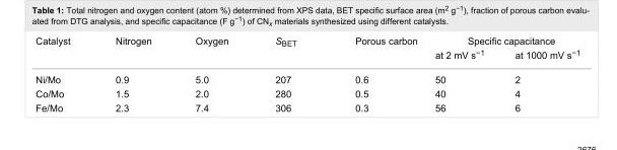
<table><tbody><tr><td rowspan="2">Catalyst</td><td rowspan="2">Nitrogen</td><td rowspan="2">Oxygen</td><td rowspan="2">S<sub>BET</sub></td><td rowspan="2">Porous carbon</td><td colspan="2">Specific capacitance</td></tr><tr><td>at 2 mV s<sup>−1</sup></td><td>at 1000 mV s<sup>−1</sup></td></tr><tr><td>Ni/Mo</td><td>0.9</td><td>5.0</td><td>207</td><td>0.6</td><td>50</td><td>2</td></tr><tr><td>Co/Mo</td><td>1.5</td><td>2.0</td><td>280</td><td>0.5</td><td>40</td><td>4</td></tr><tr><td>Fe/Mo</td><td>2.3</td><td>7.4</td><td>306</td><td>0.3</td><td>56</td><td>6</td></tr></tbody></table>